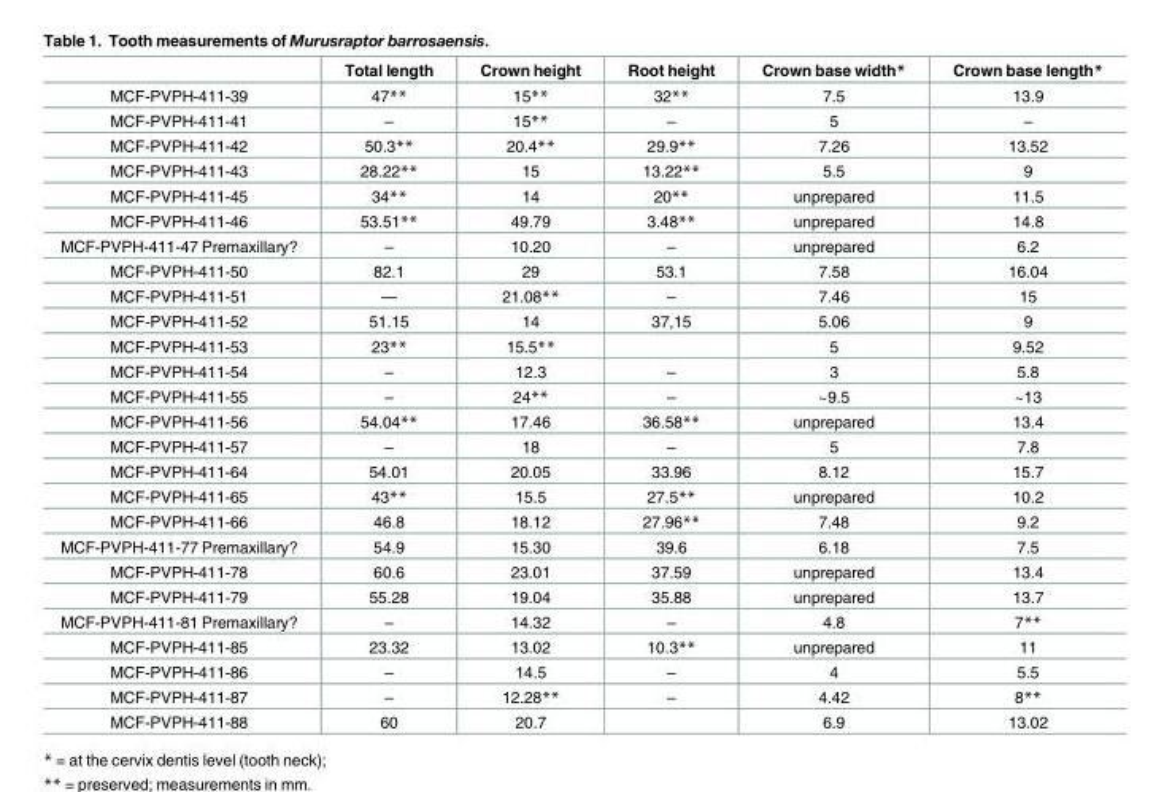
<table><thead><tr><td></td><td>Total length</td><td>Crown height</td><td>Root height</td><td>Crown base width*</td><td>Crown base length*</td></tr></thead><tbody><tr><td>MCF-PVPH-411-39</td><td>47**</td><td>15**</td><td>32**</td><td>7.5</td><td>13.9</td></tr><tr><td>MCF-PVPH-411-41</td><td>–</td><td>15**</td><td>–</td><td>5</td><td>–</td></tr><tr><td>MCF-PVPH-411-42</td><td>50.3**</td><td>20.4**</td><td>29.9**</td><td>7.26</td><td>13.52</td></tr><tr><td>MCF-PVPH-411-43</td><td>28.22**</td><td>15</td><td>13.22**</td><td>5.5</td><td>9</td></tr><tr><td>MCF-PVPH-411-45</td><td>34**</td><td>14</td><td>20**</td><td>unprepared</td><td>11.5</td></tr><tr><td>MCF-PVPH-411-46</td><td>53.51**</td><td>49.79</td><td>3.48**</td><td>unprepared</td><td>14.8</td></tr><tr><td>MCF-PVPH-411-47 Premaxillary?</td><td>–</td><td>10.20</td><td>–</td><td>unprepared</td><td>6.2</td></tr><tr><td>MCF-PVPH-411-50</td><td>82.1</td><td>29</td><td>53.1</td><td>7.58</td><td>16.04</td></tr><tr><td>MCF-PVPH-411-51</td><td>—</td><td>21.08**</td><td>–</td><td>7.46</td><td>15</td></tr><tr><td>MCF-PVPH-411-52</td><td>51.15</td><td>14</td><td>37,15</td><td>5.06</td><td>9</td></tr><tr><td>MCF-PVPH-411-53</td><td>23**</td><td>15.5**</td><td></td><td>5</td><td>9.52</td></tr><tr><td>MCF-PVPH-411-54</td><td>–</td><td>12.3</td><td>–</td><td>3</td><td>5.8</td></tr><tr><td>MCF-PVPH-411-55</td><td>–</td><td>24**</td><td>–</td><td>~9.5</td><td>~13</td></tr><tr><td>MCF-PVPH-411-56</td><td>54.04**</td><td>17.46</td><td>36.58**</td><td>unprepared</td><td>13.4</td></tr><tr><td>MCF-PVPH-411-57</td><td>–</td><td>18</td><td>–</td><td>5</td><td>7.8</td></tr><tr><td>MCF-PVPH-411-64</td><td>54.01</td><td>20.05</td><td>33.96</td><td>8.12</td><td>15.7</td></tr><tr><td>MCF-PVPH-411-65</td><td>43**</td><td>15.5</td><td>27.5**</td><td>unprepared</td><td>10.2</td></tr><tr><td>MCF-PVPH-411-66</td><td>46.8</td><td>18.12</td><td>27.96**</td><td>7.48</td><td>9.2</td></tr><tr><td>MCF-PVPH-411-77 Premaxillary?</td><td>54.9</td><td>15.30</td><td>39.6</td><td>6.18</td><td>7.5</td></tr><tr><td>MCF-PVPH-411-78</td><td>60.6</td><td>23.01</td><td>37.59</td><td>unprepared</td><td>13.4</td></tr><tr><td>MCF-PVPH-411-79</td><td>55.28</td><td>19.04</td><td>35.88</td><td>unprepared</td><td>13.7</td></tr><tr><td>MCF-PVPH-411-81 Premaxillary?</td><td>–</td><td>14.32</td><td>–</td><td>4.8</td><td>7**</td></tr><tr><td>MCF-PVPH-411-85</td><td>23.32</td><td>13.02</td><td>10.3**</td><td>unprepared</td><td>11</td></tr><tr><td>MCF-PVPH-411-86</td><td>–</td><td>14.5</td><td>–</td><td>4</td><td>5.5</td></tr><tr><td>MCF-PVPH-411-87</td><td>–</td><td>12.28**</td><td>–</td><td>4.42</td><td>8**</td></tr><tr><td>MCF-PVPH-411-88</td><td>60</td><td>20.7</td><td></td><td>6.9</td><td>13.02</td></tr></tbody></table>